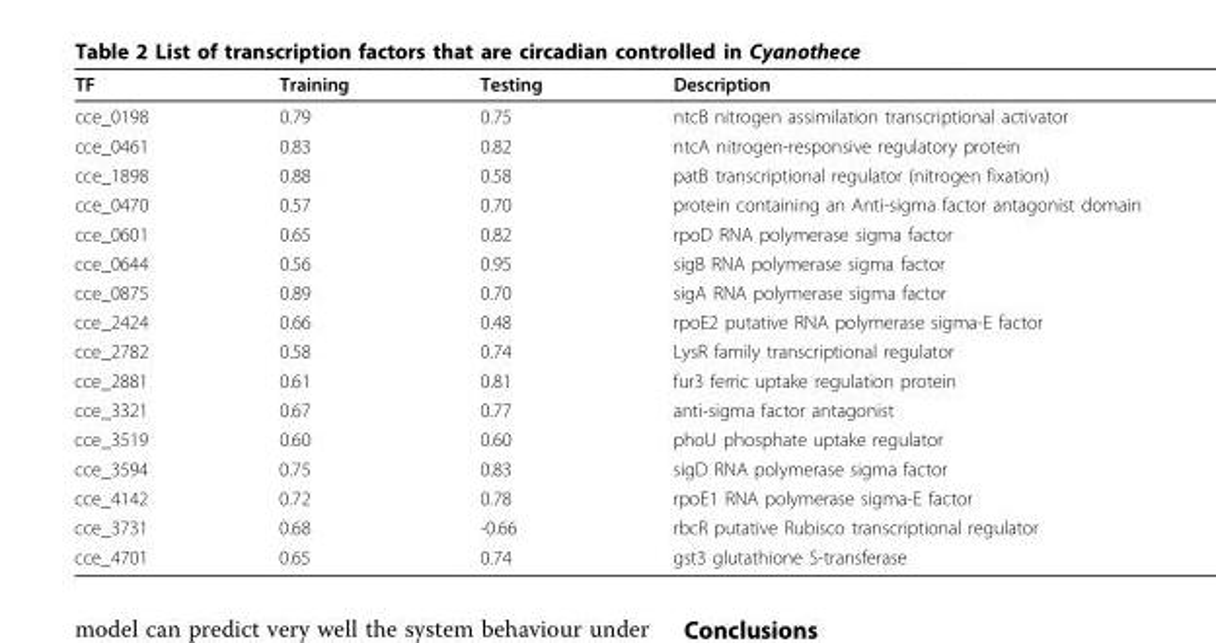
<table><thead><tr><td>TF</td><td>Training</td><td>Testing</td><td>Description</td></tr></thead><tbody><tr><td>cce_0198</td><td>0.79</td><td>0.75</td><td>ntcB nitrogen assimilation transcriptional activator</td></tr><tr><td>cce_0461</td><td>0.83</td><td>0.82</td><td>ntcA nitrogen-responsive regulatory protein</td></tr><tr><td>cce_1898</td><td>0.88</td><td>0.58</td><td>patB transcriptional regulator (nitrogen fixation)</td></tr><tr><td>cce_0470</td><td>0.57</td><td>0.70</td><td>protein containing an Anti-sigma factor antagonist domain</td></tr><tr><td>cce_0601</td><td>0.65</td><td>0.82</td><td>rpoD RNA polymerase sigma factor</td></tr><tr><td>cce_0644</td><td>0.56</td><td>0.95</td><td>sigB RNA polymerase sigma factor</td></tr><tr><td>cce_0875</td><td>0.89</td><td>0.70</td><td>sigA RNA polymerase sigma factor</td></tr><tr><td>cce_2424</td><td>0.66</td><td>0.48</td><td>rpoE2 putative RNA polymerase sigma-E factor</td></tr><tr><td>cce_2782</td><td>0.58</td><td>0.74</td><td>LysR family transcriptional regulator</td></tr><tr><td>cce_2881</td><td>0.61</td><td>0.81</td><td>fur3 ferric uptake regulation protein</td></tr><tr><td>cce_3321</td><td>0.67</td><td>0.77</td><td>anti-sigma factor antagonist</td></tr><tr><td>cce_3519</td><td>0.60</td><td>0.60</td><td>phoU phosphate uptake regulator</td></tr><tr><td>cce_3594</td><td>0.75</td><td>0.83</td><td>sigD RNA polymerase sigma factor</td></tr><tr><td>cce_4142</td><td>0.72</td><td>0.78</td><td>rpoE1 RNA polymerase sigma-E factor</td></tr><tr><td>cce_3731</td><td>0.68</td><td>-0.66</td><td>rbcR putative Rubisco transcriptional regulator</td></tr><tr><td>cce_4701</td><td>0.65</td><td>0.74</td><td>gst3 glutathione S-transferase</td></tr></tbody></table>